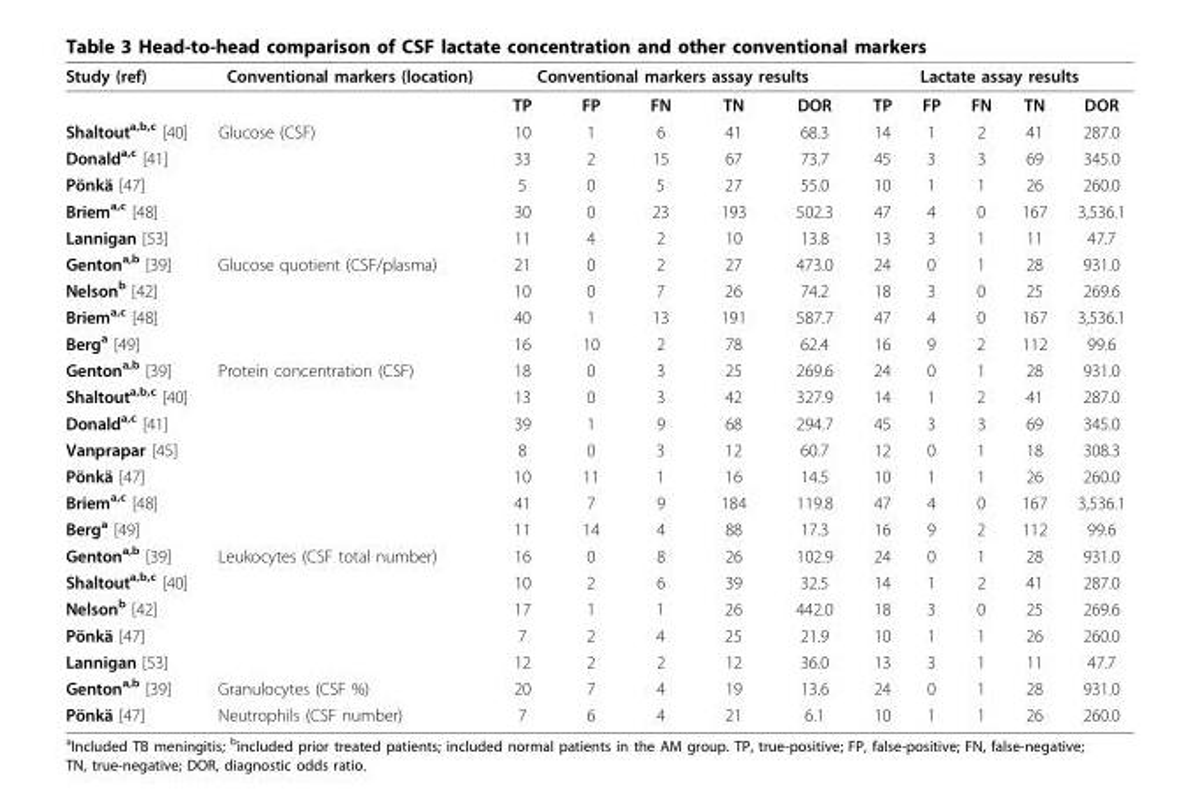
<table><thead><tr><td rowspan="2">Study (ref)</td><td rowspan="2">Conventional markers (location)</td><td colspan="5">Conventional markers assay results</td><td colspan="5">Lactate assay results</td></tr><tr><td>TP</td><td>FP</td><td>FN</td><td>TN</td><td>DOR</td><td>TP</td><td>FP</td><td>FN</td><td>TN</td><td>DOR</td></tr></thead><tbody><tr><td>Shaltout<sup>a,b,c</sup> [40]</td><td>Glucose (CSF)</td><td>10</td><td>1</td><td>6</td><td>41</td><td>68.3</td><td>14</td><td>1</td><td>2</td><td>41</td><td>287.0</td></tr><tr><td>Donald<sup>a,c</sup> [41]</td><td></td><td>33</td><td>2</td><td>15</td><td>67</td><td>73.7</td><td>45</td><td>3</td><td>3</td><td>69</td><td>345.0</td></tr><tr><td>Pönkä [47]</td><td></td><td>5</td><td>0</td><td>5</td><td>27</td><td>55.0</td><td>10</td><td>1</td><td>1</td><td>26</td><td>260.0</td></tr><tr><td>Briem<sup>a,c</sup> [48]</td><td></td><td>30</td><td>0</td><td>23</td><td>193</td><td>502.3</td><td>47</td><td>4</td><td>0</td><td>167</td><td>3,536.1</td></tr><tr><td>Lannigan [53]</td><td></td><td>11</td><td>4</td><td>2</td><td>10</td><td>13.8</td><td>13</td><td>3</td><td>1</td><td>11</td><td>47.7</td></tr><tr><td>Genton<sup>a,b</sup> [39]</td><td>Glucose quotient (CSF/plasma)</td><td>21</td><td>0</td><td>2</td><td>27</td><td>473.0</td><td>24</td><td>0</td><td>1</td><td>28</td><td>931.0</td></tr><tr><td>Nelson<sup>b</sup> [42]</td><td></td><td>10</td><td>0</td><td>7</td><td>26</td><td>74.2</td><td>18</td><td>3</td><td>0</td><td>25</td><td>269.6</td></tr><tr><td>Briem<sup>a,c</sup> [48]</td><td></td><td>40</td><td>1</td><td>13</td><td>191</td><td>587.7</td><td>47</td><td>4</td><td>0</td><td>167</td><td>3,536.1</td></tr><tr><td>Berg<sup>a</sup> [49]</td><td></td><td>16</td><td>10</td><td>2</td><td>78</td><td>62.4</td><td>16</td><td>9</td><td>2</td><td>112</td><td>99.6</td></tr><tr><td>Genton<sup>a,b</sup> [39]</td><td>Protein concentration (CSF)</td><td>18</td><td>0</td><td>3</td><td>25</td><td>269.6</td><td>24</td><td>0</td><td>1</td><td>28</td><td>931.0</td></tr><tr><td>Shaltout<sup>a,b,c</sup> [40]</td><td></td><td>13</td><td>0</td><td>3</td><td>42</td><td>327.9</td><td>14</td><td>1</td><td>2</td><td>41</td><td>287.0</td></tr><tr><td>Donald<sup>a,c</sup> [41]</td><td></td><td>39</td><td>1</td><td>9</td><td>68</td><td>294.7</td><td>45</td><td>3</td><td>3</td><td>69</td><td>345.0</td></tr><tr><td>Vanprapar [45]</td><td></td><td>8</td><td>0</td><td>3</td><td>12</td><td>60.7</td><td>12</td><td>0</td><td>1</td><td>18</td><td>308.3</td></tr><tr><td>Pönkä [47]</td><td></td><td>10</td><td>11</td><td>1</td><td>16</td><td>14.5</td><td>10</td><td>1</td><td>1</td><td>26</td><td>260.0</td></tr><tr><td>Briem<sup>a,c</sup> [48]</td><td></td><td>41</td><td>7</td><td>9</td><td>184</td><td>119.8</td><td>47</td><td>4</td><td>0</td><td>167</td><td>3,536.1</td></tr><tr><td>Berg<sup>a</sup> [49]</td><td></td><td>11</td><td>14</td><td>4</td><td>88</td><td>17.3</td><td>16</td><td>9</td><td>2</td><td>112</td><td>99.6</td></tr><tr><td>Genton<sup>a,b</sup> [39]</td><td>Leukocytes (CSF total number)</td><td>16</td><td>0</td><td>8</td><td>26</td><td>102.9</td><td>24</td><td>0</td><td>1</td><td>28</td><td>931.0</td></tr><tr><td>Shaltout<sup>a,b,c</sup> [40]</td><td></td><td>10</td><td>2</td><td>6</td><td>39</td><td>32.5</td><td>14</td><td>1</td><td>2</td><td>41</td><td>287.0</td></tr><tr><td>Nelson<sup>b</sup> [42]</td><td></td><td>17</td><td>1</td><td>1</td><td>26</td><td>442.0</td><td>18</td><td>3</td><td>0</td><td>25</td><td>269.6</td></tr><tr><td>Pönkä [47]</td><td></td><td>7</td><td>2</td><td>4</td><td>25</td><td>21.9</td><td>10</td><td>1</td><td>1</td><td>26</td><td>260.0</td></tr><tr><td>Lannigan [53]</td><td></td><td>12</td><td>2</td><td>2</td><td>12</td><td>36.0</td><td>13</td><td>3</td><td>1</td><td>11</td><td>47.7</td></tr><tr><td>Genton<sup>a,b</sup> [39]</td><td>Granulocytes (CSF %)</td><td>20</td><td>7</td><td>4</td><td>19</td><td>13.6</td><td>24</td><td>0</td><td>1</td><td>28</td><td>931.0</td></tr><tr><td>Pönkä [47]</td><td>Neutrophils (CSF number)</td><td>7</td><td>6</td><td>4</td><td>21</td><td>6.1</td><td>10</td><td>1</td><td>1</td><td>26</td><td>260.0</td></tr></tbody></table>